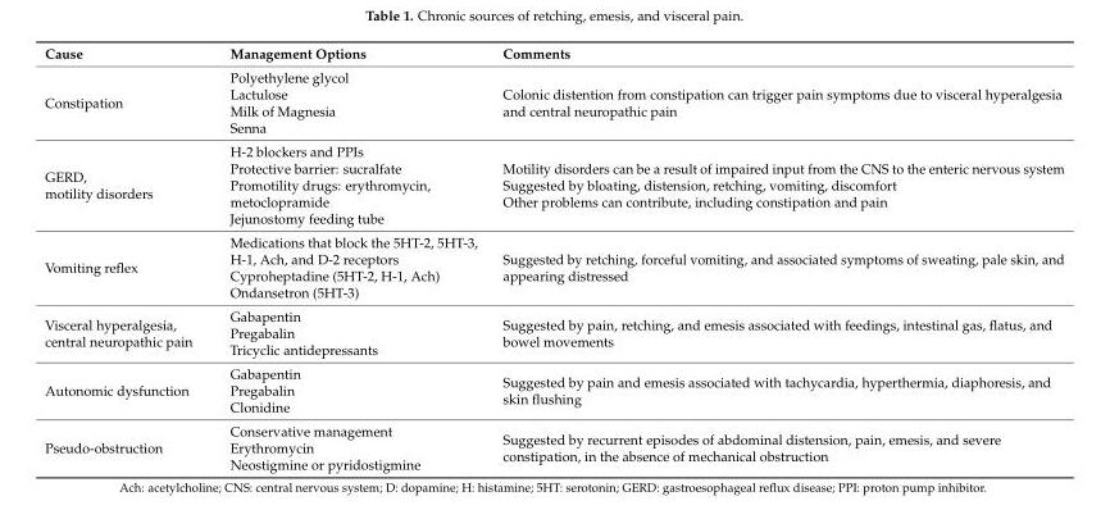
<table><thead><tr><td>Cause</td><td>Management Options</td><td>Comments</td></tr></thead><tbody><tr><td>Constipation</td><td>Polyethylene glycol Lactulose Milk of Magnesia Senna</td><td>Colonic distention from constipation can trigger pain symptoms due to visceral hyperalgesia and central neuropathic pain</td></tr><tr><td>GERD, motility disorders</td><td>H-2 blockers and PPIs Protective barrier: sucralfate Promotility drugs: erythromycin, metoclopramide Jejunostomy feeding tube</td><td>Motility disorders can be a result of impaired input from the CNS to the enteric nervous system Suggested by bloating, distension, retching, vomiting, discomfort Other problems can contribute, including constipation and pain</td></tr><tr><td>Vomiting reflex</td><td>Medications that block the 5HT-2, 5HT-3, H-1, Ach, and D-2 receptors Cyproheptadine (5HT-2, H-1, Ach) Ondansetron (5HT-3)</td><td>Suggested by retching, forceful vomiting, and associated symptoms of sweating, pale skin, and appearing distressed</td></tr><tr><td>Visceral hyperalgesia, central neuropathic pain</td><td>Gabapentin Pregabalin Tricyclic antidepressants</td><td>Suggested by pain, retching, and emesis associated with feedings, intestinal gas, flatus, and bowel movements</td></tr><tr><td>Autonomic dysfunction</td><td>Gabapentin Pregabalin Clonidine</td><td>Suggested by pain and emesis associated with tachycardia, hyperthermia, diaphoresis, and skin flushing</td></tr><tr><td>Pseudo-obstruction</td><td>Conservative management Erythromycin Neostigmine or pyridostigmine</td><td>Suggested by recurrent episodes of abdominal distension, pain, emesis, and severe constipation, in the absence of mechanical obstruction</td></tr></tbody></table>